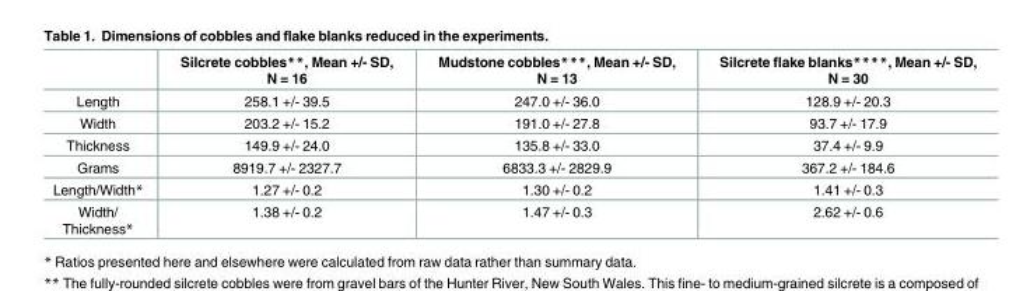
<table><thead><tr><td></td><td>Silcrete cobbles**, Mean +/- SD, N = 16</td><td>Mudstone cobbles***, Mean +/- SD, N = 13</td><td>Silcrete flake blanks****, Mean +/- SD, N = 30</td></tr></thead><tbody><tr><td>Length</td><td>258.1 +/- 39.5</td><td>247.0 +/- 36.0</td><td>128.9 +/- 20.3</td></tr><tr><td>Width</td><td>203.2 +/- 15.2</td><td>191.0 +/- 27.8</td><td>93.7 +/- 17.9</td></tr><tr><td>Thickness</td><td>149.9 +/- 24.0</td><td>135.8 +/- 33.0</td><td>37.4 +/- 9.9</td></tr><tr><td>Grams</td><td>8919.7 +/- 2327.7</td><td>6833.3 +/- 2829.9</td><td>367.2 +/- 184.6</td></tr><tr><td>Length/Width*</td><td>1.27 +/- 0.2</td><td>1.30 +/- 0.2</td><td>1.41 +/- 0.3</td></tr><tr><td>Width/ Thickness*</td><td>1.38 +/- 0.2</td><td>1.47 +/- 0.3</td><td>2.62 +/- 0.6</td></tr></tbody></table>